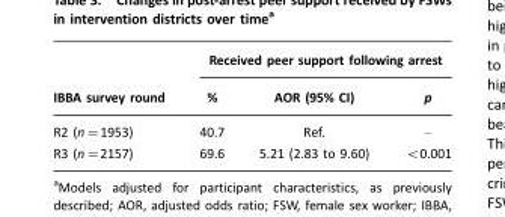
<table><thead><tr><td rowspan="2">IBBA survey round</td><td colspan="3">Received peer support following arrest</td></tr><tr><td>%</td><td>AOR (95% CI)</td><td>p</td></tr></thead><tbody><tr><td>R2 (n=1953)</td><td>40.7</td><td>Ref.</td><td>–</td></tr><tr><td>R3 (n=2157)</td><td>69.6</td><td>5.21 (2.83 to 9.60)</td><td>&lt;0.001</td></tr></tbody></table>